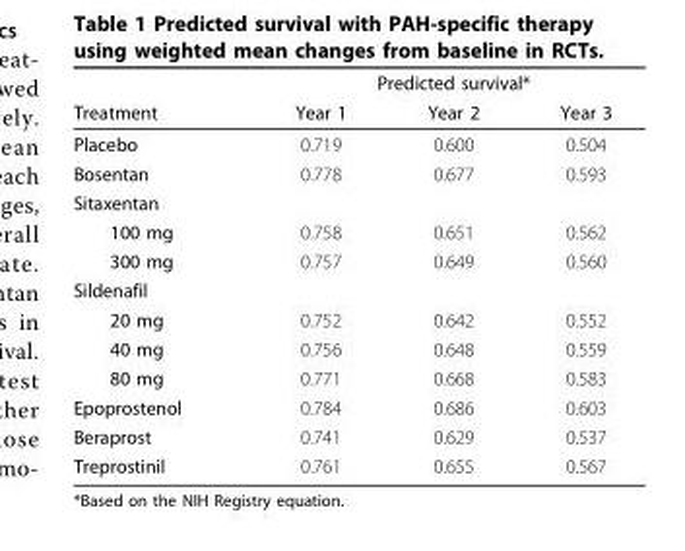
<table><thead><tr><td rowspan="2">Treatment</td><td colspan="3">Predicted survival*</td></tr><tr><td>Year 1</td><td>Year 2</td><td>Year 3</td></tr></thead><tbody><tr><td>Placebo</td><td>0.719</td><td>0.600</td><td>0.504</td></tr><tr><td>Bosentan</td><td>0.778</td><td>0.677</td><td>0.593</td></tr><tr><td colspan="4">Sitaxentan</td></tr><tr><td>100 mg</td><td>0.758</td><td>0.651</td><td>0.562</td></tr><tr><td>300 mg</td><td>0.757</td><td>0.649</td><td>0.560</td></tr><tr><td colspan="4">Sildenafil</td></tr><tr><td>20 mg</td><td>0.752</td><td>0.642</td><td>0.552</td></tr><tr><td>40 mg</td><td>0.756</td><td>0.648</td><td>0.559</td></tr><tr><td>80 mg</td><td>0.771</td><td>0.668</td><td>0.583</td></tr><tr><td>Epoprostenol</td><td>0.784</td><td>0.686</td><td>0.603</td></tr><tr><td>Beraprost</td><td>0.741</td><td>0.629</td><td>0.537</td></tr><tr><td>Treprostinil</td><td>0.761</td><td>0.655</td><td>0.567</td></tr></tbody></table>